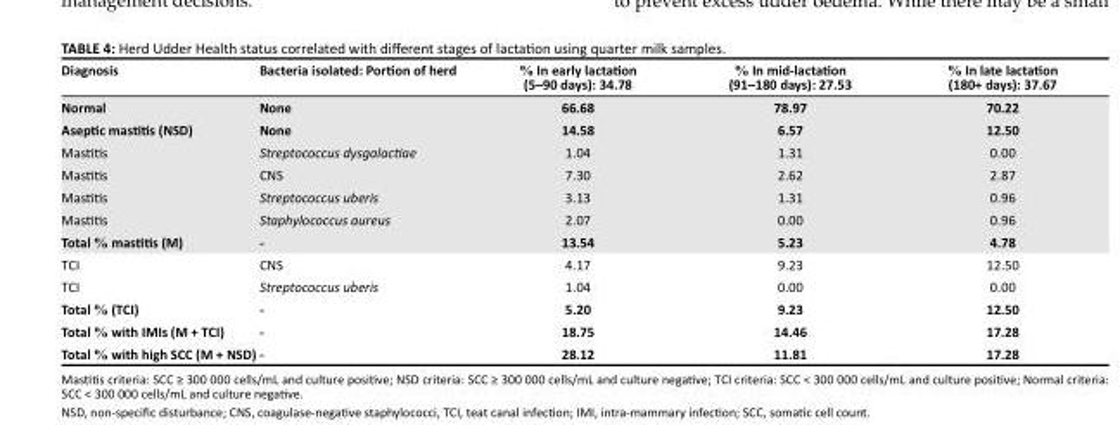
<table><thead><tr><td>Diagnosis</td><td>Bacteria isolated: Portion of herd</td><td>% In early lactation (5–90 days): 34.78</td><td>% In mid-lactation (91–180 days): 27.53</td><td>% In late lactation (180+ days): 37.67</td></tr></thead><tbody><tr><td>Normal</td><td>None</td><td>66.68</td><td>78.97</td><td>70.22</td></tr><tr><td>Aseptic mastitis (NSD)</td><td>None</td><td>14.58</td><td>6.57</td><td>12.50</td></tr><tr><td>Mastitis</td><td>Streptococcus dysgalactiae</td><td>1.04</td><td>1.31</td><td>0.00</td></tr><tr><td>Mastitis</td><td>CNS</td><td>7.30</td><td>2.62</td><td>2.87</td></tr><tr><td>Mastitis</td><td>Streptococcus uberis</td><td>3.13</td><td>1.31</td><td>0.96</td></tr><tr><td>Mastitis</td><td>Staphylococcus aureus</td><td>2.07</td><td>0.00</td><td>0.96</td></tr><tr><td>Total % mastitis (M)</td><td>-</td><td>13.54</td><td>5.23</td><td>4.78</td></tr><tr><td>TCI</td><td>CNS</td><td>4.17</td><td>9.23</td><td>12.50</td></tr><tr><td>TCI</td><td>Streptococcus uberis</td><td>1.04</td><td>0.00</td><td>0.00</td></tr><tr><td>Total % (TCI)</td><td>-</td><td>5.20</td><td>9.23</td><td>12.50</td></tr><tr><td>Total % with IMIs (M + TCI)</td><td>-</td><td>18.75</td><td>14.46</td><td>17.28</td></tr><tr><td>Total % with high SCC (M + NSD)</td><td>-</td><td>28.12</td><td>11.81</td><td>17.28</td></tr></tbody></table>